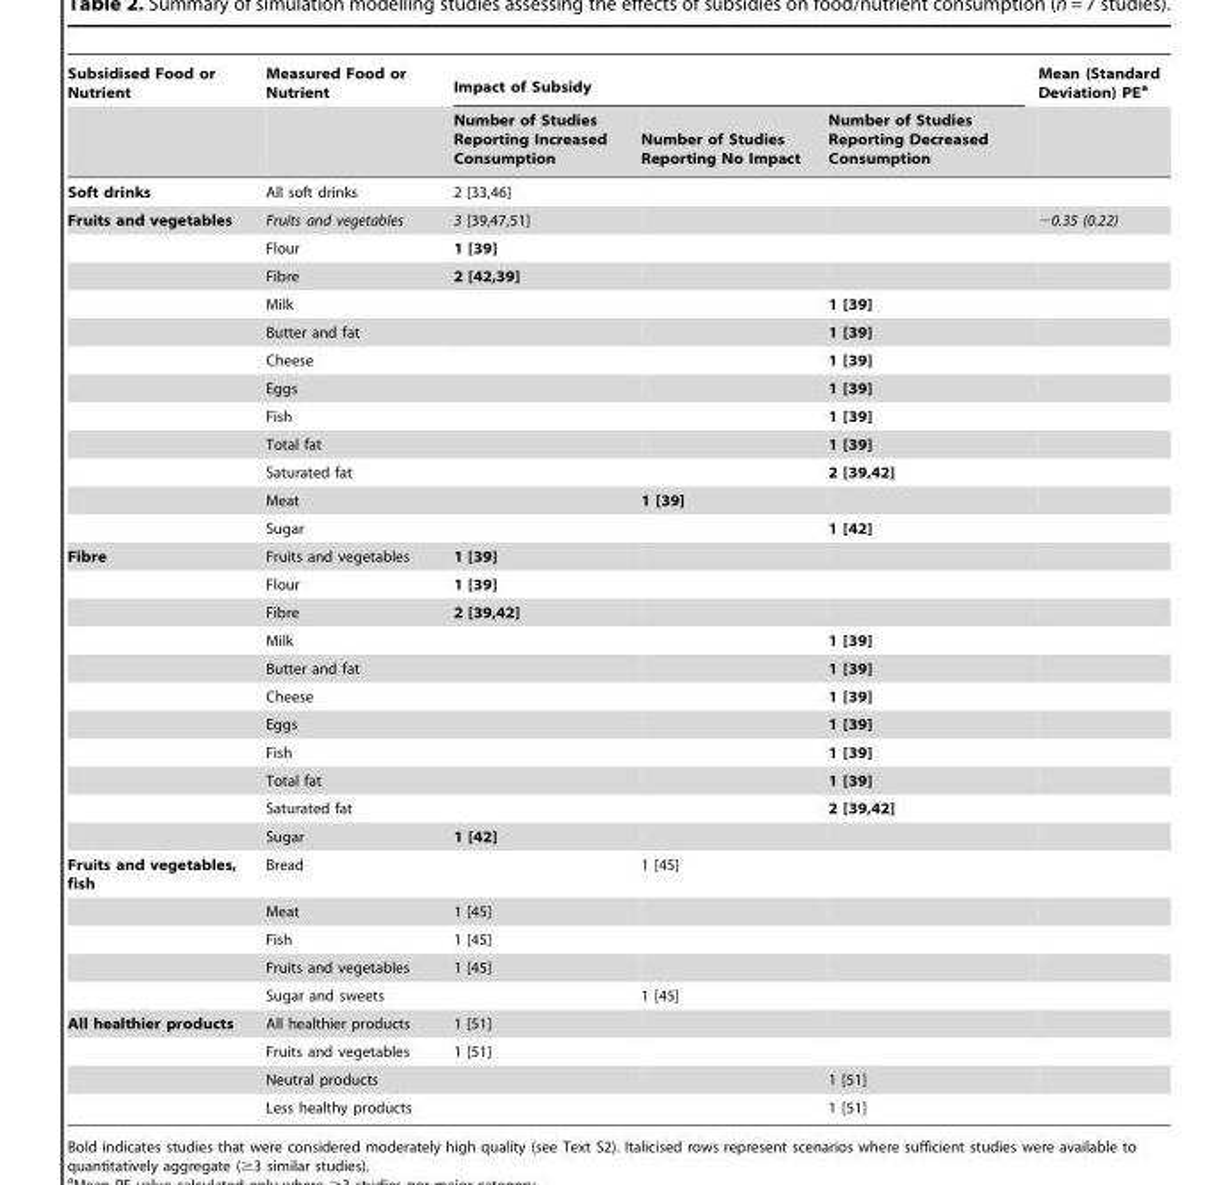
<table><thead><tr><td rowspan="2">Subsidised Food or Nutrient</td><td rowspan="2">Measured Food or Nutrient</td><td colspan="3">Impact of Subsidy</td><td rowspan="2">Mean (Standard Deviation) PE<sup>a</sup></td></tr><tr><td>Number of Studies Reporting Increased Consumption</td><td>Number of Studies Reporting No Impact</td><td>Number of Studies Reporting Decreased Consumption</td></tr></thead><tbody><tr><td>Soft drinks</td><td>All soft drinks</td><td>2 [33,46]</td><td></td><td></td><td></td></tr><tr><td rowspan="12">Fruits and vegetables</td><td>Fruits and vegetables</td><td>3 [39,47,51]</td><td></td><td></td><td>−0.35 (0.22)</td></tr><tr><td>Flour</td><td>1 [39]</td><td></td><td></td><td></td></tr><tr><td>Fibre</td><td>2 [42,39]</td><td></td><td></td><td></td></tr><tr><td>Milk</td><td></td><td></td><td>1 [39]</td><td></td></tr><tr><td>Butter and fat</td><td></td><td></td><td>1 [39]</td><td></td></tr><tr><td>Cheese</td><td></td><td></td><td>1 [39]</td><td></td></tr><tr><td>Eggs</td><td></td><td></td><td>1 [39]</td><td></td></tr><tr><td>Fish</td><td></td><td></td><td>1 [39]</td><td></td></tr><tr><td>Total fat</td><td></td><td></td><td>1 [39]</td><td></td></tr><tr><td>Saturated fat</td><td></td><td></td><td>2 [39,42]</td><td></td></tr><tr><td>Meat</td><td></td><td>1 [39]</td><td></td><td></td></tr><tr><td>Sugar</td><td></td><td></td><td>1 [42]</td><td></td></tr><tr><td rowspan="11">Fibre</td><td>Fruits and vegetables</td><td>1 [39]</td><td></td><td></td><td></td></tr><tr><td>Flour</td><td>1 [39]</td><td></td><td></td><td></td></tr><tr><td>Fibre</td><td>2 [39,42]</td><td></td><td></td><td></td></tr><tr><td>Milk</td><td></td><td></td><td>1 [39]</td><td></td></tr><tr><td>Butter and fat</td><td></td><td></td><td>1 [39]</td><td></td></tr><tr><td>Cheese</td><td></td><td></td><td>1 [39]</td><td></td></tr><tr><td>Eggs</td><td></td><td></td><td>1 [39]</td><td></td></tr><tr><td>Fish</td><td></td><td></td><td>1 [39]</td><td></td></tr><tr><td>Total fat</td><td></td><td></td><td>1 [39]</td><td></td></tr><tr><td>Saturated fat</td><td></td><td></td><td>2 [39,42]</td><td></td></tr><tr><td>Sugar</td><td>1 [42]</td><td></td><td></td><td></td></tr><tr><td rowspan="5">Fruits and vegetables, fish</td><td>Bread</td><td></td><td>1 [45]</td><td></td><td></td></tr><tr><td>Meat</td><td>1 [45]</td><td></td><td></td><td></td></tr><tr><td>Fish</td><td>1 [45]</td><td></td><td></td><td></td></tr><tr><td>Fruits and vegetables</td><td>1 [45]</td><td></td><td></td><td></td></tr><tr><td>Sugar and sweets</td><td></td><td>1 [45]</td><td></td><td></td></tr><tr><td rowspan="4">All healthier products</td><td>All healthier products</td><td>1 [51]</td><td></td><td></td><td></td></tr><tr><td>Fruits and vegetables</td><td>1 [51]</td><td></td><td></td><td></td></tr><tr><td>Neutral products</td><td></td><td></td><td>1 [51]</td><td></td></tr><tr><td>Less healthy products</td><td></td><td></td><td>1 [51]</td><td></td></tr></tbody></table>